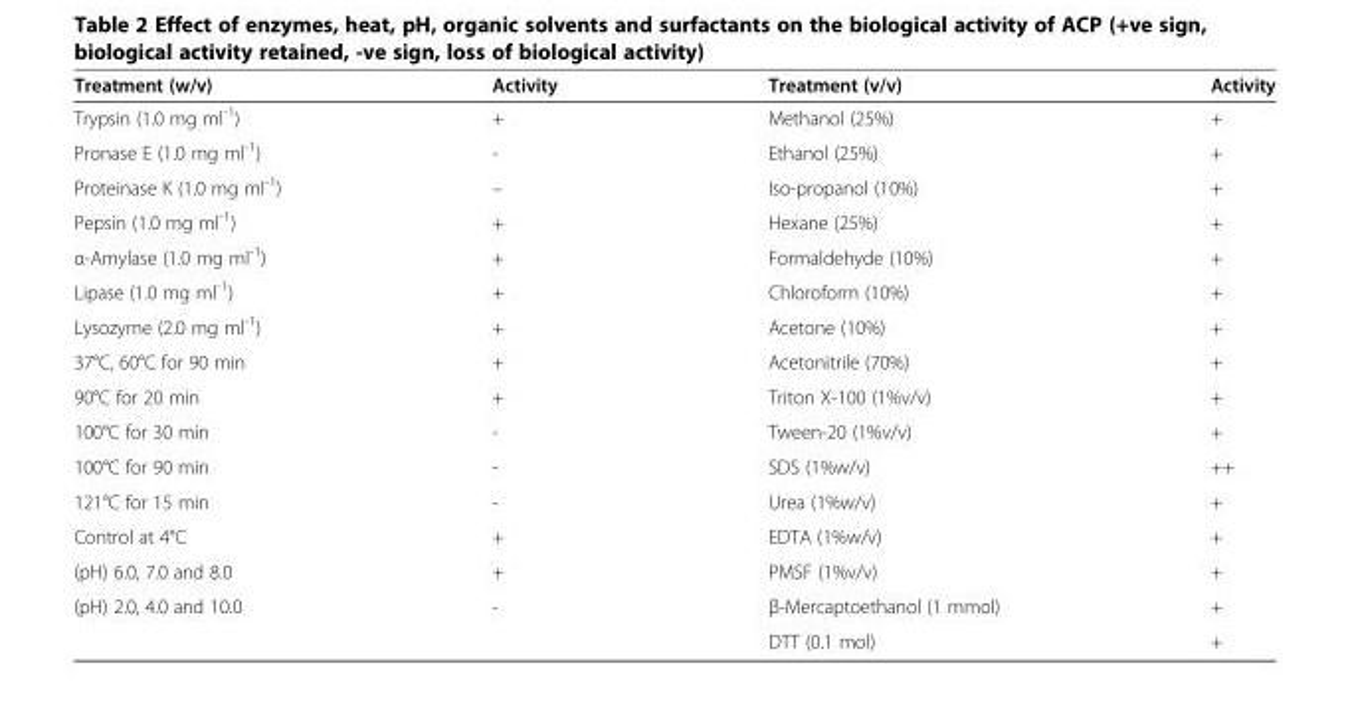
<table><thead><tr><td>Treatment (w/v)</td><td>Activity</td><td>Treatment (v/v)</td><td>Activity</td></tr></thead><tbody><tr><td>Trypsin (1.0 mg ml<sup>-1</sup>)</td><td>+</td><td>Methanol (25%)</td><td>+</td></tr><tr><td>Pronase E (1.0 mg ml<sup>-1</sup>)</td><td>-</td><td>Ethanol (25%)</td><td>+</td></tr><tr><td>Proteinase K (1.0 mg ml<sup>-1</sup>)</td><td>–</td><td>Iso-propanol (10%)</td><td>+</td></tr><tr><td>Pepsin (1.0 mg ml<sup>-1</sup>)</td><td>+</td><td>Hexane (25%)</td><td>+</td></tr><tr><td>α-Amylase (1.0 mg ml<sup>-1</sup>)</td><td>+</td><td>Formaldehyde (10%)</td><td>+</td></tr><tr><td>Lipase (1.0 mg ml<sup>-1</sup>)</td><td>+</td><td>Chloroform (10%)</td><td>+</td></tr><tr><td>Lysozyme (2.0 mg ml<sup>-1</sup>)</td><td>+</td><td>Acetone (10%)</td><td>+</td></tr><tr><td>37°C, 60°C for 90 min</td><td>+</td><td>Acetonitrile (70%)</td><td>+</td></tr><tr><td>90°C for 20 min</td><td>+</td><td>Triton X-100 (1%v/v)</td><td>+</td></tr><tr><td>100°C for 30 min</td><td>-</td><td>Tween-20 (1%v/v)</td><td>+</td></tr><tr><td>100°C for 90 min</td><td>-</td><td>SDS (1%w/v)</td><td>++</td></tr><tr><td>121°C for 15 min</td><td>-</td><td>Urea (1%w/v)</td><td>+</td></tr><tr><td>Control at 4°C</td><td>+</td><td>EDTA (1%w/v)</td><td>+</td></tr><tr><td>(pH) 6.0, 7.0 and 8.0</td><td>+</td><td>PMSF (1%v/v)</td><td>+</td></tr><tr><td rowspan="2">(pH) 2.0, 4.0 and 10.0</td><td>-</td><td>β-Mercaptoethanol (1 mmol)</td><td>+</td></tr><tr><td></td><td>DTT (0.1 mol)</td><td>+</td></tr></tbody></table>